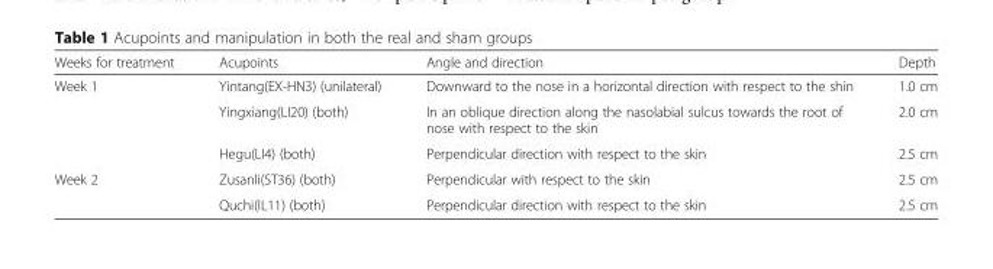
<table><thead><tr><td>Weeks for treatment</td><td>Acupoints</td><td>Angle and direction</td><td>Depth</td></tr></thead><tbody><tr><td rowspan="3">Week 1</td><td>Yintang(EX-HN3) (unilateral)</td><td>Downward to the nose in a horizontal direction with respect to the shin</td><td>1.0 cm</td></tr><tr><td>Yingxiang(LI20) (both)</td><td>In an oblique direction along the nasolabial sulcus towards the root of nose with respect to the skin</td><td>2.0 cm</td></tr><tr><td>Hegu(LI4) (both)</td><td>Perpendicular direction with respect to the skin</td><td>2.5 cm</td></tr><tr><td rowspan="2">Week 2</td><td>Zusanli(ST36) (both)</td><td>Perpendicular with respect to the skin</td><td>2.5 cm</td></tr><tr><td>Quchi(IL11) (both)</td><td>Perpendicular direction with respect to the skin</td><td>2.5 cm</td></tr></tbody></table>